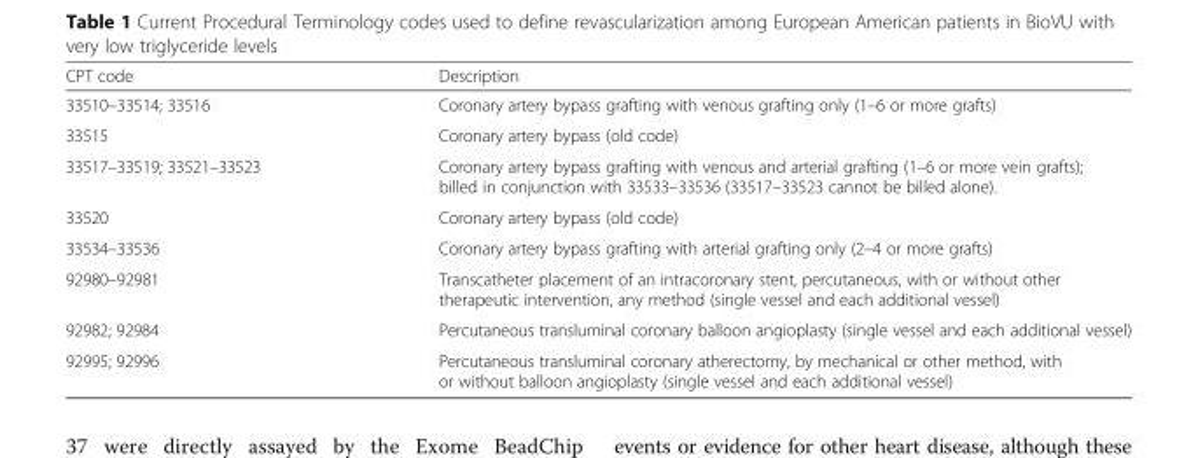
<table><thead><tr><td>CPT code</td><td>Description</td></tr></thead><tbody><tr><td>33510–33514; 33516</td><td>Coronary artery bypass grafting with venous grafting only (1–6 or more grafts)</td></tr><tr><td>33515</td><td>Coronary artery bypass (old code)</td></tr><tr><td>33517–33519; 33521–33523</td><td>Coronary artery bypass grafting with venous and arterial grafting (1–6 or more vein grafts); billed in conjunction with 33533–33536 (33517–33523 cannot be billed alone).</td></tr><tr><td>33520</td><td>Coronary artery bypass (old code)</td></tr><tr><td>33534–33536</td><td>Coronary artery bypass grafting with arterial grafting only (2–4 or more grafts)</td></tr><tr><td>92980–92981</td><td>Transcatheter placement of an intracoronary stent, percutaneous, with or without other therapeutic intervention, any method (single vessel and each additional vessel)</td></tr><tr><td>92982; 92984</td><td>Percutaneous transluminal coronary balloon angioplasty (single vessel and each additional vessel)</td></tr><tr><td>92995; 92996</td><td>Percutaneous transluminal coronary atherectomy, by mechanical or other method, with or without balloon angioplasty (single vessel and each additional vessel)</td></tr></tbody></table>